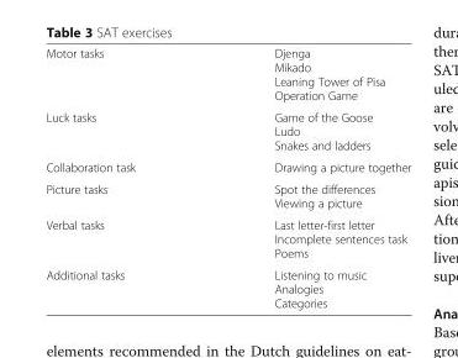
<table><tbody><tr><td>Motor tasks</td><td>Djenga Mikado Leaning Tower of Pisa Operation Game</td></tr><tr><td>Luck tasks</td><td>Game of the Goose Ludo Snakes and ladders</td></tr><tr><td>Collaboration task</td><td>Drawing a picture together</td></tr><tr><td>Picture tasks</td><td>Spot the differences Viewing a picture</td></tr><tr><td>Verbal tasks</td><td>Last letter-first letter Incomplete sentences task Poems</td></tr><tr><td>Additional tasks</td><td>Listening to music Analogies Categories</td></tr></tbody></table>